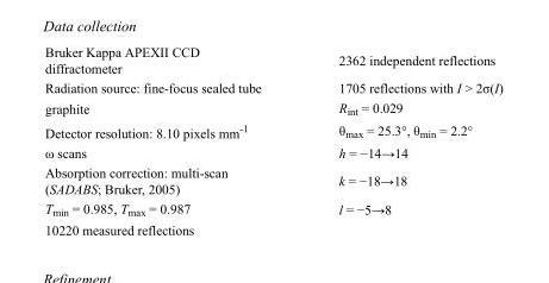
<table><tbody><tr><td>Bruker Kappa APEXII CCD diffractometer</td><td>2362 independent reflections</td></tr><tr><td>Radiation source: fine-focus sealed tube</td><td>1705 reflections with I &gt; 2σ(I)</td></tr><tr><td>graphite</td><td>R<sub>int</sub> = 0.029</td></tr><tr><td>Detector resolution: 8.10 pixels mm<sup>-1</sup></td><td>θ<sub>max</sub> = 25.3°, θ<sub>min</sub> = 2.2°</td></tr><tr><td>ω scans</td><td>h = −14→14</td></tr><tr><td>Absorption correction: multi-scan (SADABS; Bruker, 2005)</td><td>k = −18→18</td></tr><tr><td>T<sub>min</sub> = 0.985, T<sub>max</sub> = 0.987</td><td>l = −5→8</td></tr><tr><td>10220 measured reflections</td><td></td></tr></tbody></table>